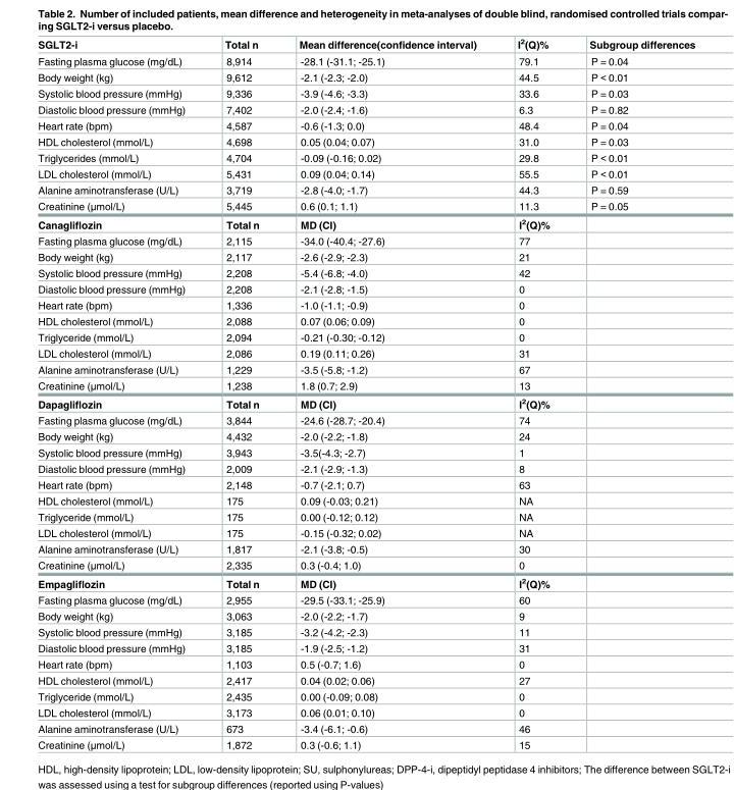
<table><thead><tr><td>SGLT2-i</td><td>Total n</td><td>Mean difference(confidence interval)</td><td>I<sup>2</sup>(Q)%</td><td>Subgroup differences</td></tr></thead><tbody><tr><td>Fasting plasma glucose (mg/dL)</td><td>8,914</td><td>-28.1 (-31.1; -25.1)</td><td>79.1</td><td>P = 0.04</td></tr><tr><td>Body weight (kg)</td><td>9,612</td><td>-2.1 (-2.3; -2.0)</td><td>44.5</td><td>P &lt; 0.01</td></tr><tr><td>Systolic blood pressure (mmHg)</td><td>9,336</td><td>-3.9 (-4.6; -3.3)</td><td>33.6</td><td>P = 0.03</td></tr><tr><td>Diastolic blood pressure (mmHg)</td><td>7,402</td><td>-2.0 (-2.4; -1.6)</td><td>6.3</td><td>P = 0.82</td></tr><tr><td>Heart rate (bpm)</td><td>4,587</td><td>-0.6 (-1.3; 0.0)</td><td>48.4</td><td>P = 0.04</td></tr><tr><td>HDL cholesterol (mmol/L)</td><td>4,698</td><td>0.05 (0.04; 0.07)</td><td>31.0</td><td>P = 0.03</td></tr><tr><td>Triglycerides (mmol/L)</td><td>4,704</td><td>-0.09 (-0.16; 0.02)</td><td>29.8</td><td>P &lt; 0.01</td></tr><tr><td>LDL cholesterol (mmol/L)</td><td>5,431</td><td>0.09 (0.04; 0.14)</td><td>55.5</td><td>P &lt; 0.01</td></tr><tr><td>Alanine aminotransferase (U/L)</td><td>3,719</td><td>-2.8 (-4.0; -1.7)</td><td>44.3</td><td>P = 0.59</td></tr><tr><td>Creatinine (μmol/L)</td><td>5,445</td><td>0.6 (0.1; 1.1)</td><td>11.3</td><td>P = 0.05</td></tr><tr><td>Canagliflozin</td><td>Total n</td><td>MD (CI)</td><td>I<sup>2</sup>(Q)%</td><td></td></tr><tr><td>Fasting plasma glucose (mg/dL)</td><td>2,115</td><td>-34.0 (-40.4; -27.6)</td><td>77</td><td></td></tr><tr><td>Body weight (kg)</td><td>2,117</td><td>-2.6 (-2.9; -2.3)</td><td>21</td><td></td></tr><tr><td>Systolic blood pressure (mmHg)</td><td>2,208</td><td>-5.4 (-6.8; -4.0)</td><td>42</td><td></td></tr><tr><td>Diastolic blood pressure (mmHg)</td><td>2,208</td><td>-2.1 (-2.8; -1.5)</td><td>0</td><td></td></tr><tr><td>Heart rate (bpm)</td><td>1,336</td><td>-1.0 (-1.1; -0.9)</td><td>0</td><td></td></tr><tr><td>HDL cholesterol (mmol/L)</td><td>2,088</td><td>0.07 (0.06; 0.09)</td><td>0</td><td></td></tr><tr><td>Triglyceride (mmol/L)</td><td>2,094</td><td>-0.21 (-0.30; -0.12)</td><td>0</td><td></td></tr><tr><td>LDL cholesterol (mmol/L)</td><td>2,086</td><td>0.19 (0.11; 0.26)</td><td>31</td><td></td></tr><tr><td>Alanine aminotransferase (U/L)</td><td>1,229</td><td>-3.5 (-5.8; -1.2)</td><td>67</td><td></td></tr><tr><td>Creatinine (μmol/L)</td><td>1,238</td><td>1.8 (0.7; 2.9)</td><td>13</td><td></td></tr><tr><td>Dapagliflozin</td><td>Total n</td><td>MD (CI)</td><td>I<sup>2</sup>(Q)%</td><td></td></tr><tr><td>Fasting plasma glucose (mg/dL)</td><td>3,844</td><td>-24.6 (-28.7; -20.4)</td><td>74</td><td></td></tr><tr><td>Body weight (kg)</td><td>4,432</td><td>-2.0 (-2.2; -1.8)</td><td>24</td><td></td></tr><tr><td>Systolic blood pressure (mmHg)</td><td>3,943</td><td>-3.5(-4.3; -2.7)</td><td>1</td><td></td></tr><tr><td>Diastolic blood pressure (mmHg)</td><td>2,009</td><td>-2.1 (-2.9; -1.3)</td><td>8</td><td></td></tr><tr><td>Heart rate (bpm)</td><td>2,148</td><td>-0.7 (-2.1; 0.7)</td><td>63</td><td></td></tr><tr><td>HDL cholesterol (mmol/L)</td><td>175</td><td>0.09 (-0.03; 0.21)</td><td>NA</td><td></td></tr><tr><td>Triglyceride (mmol/L)</td><td>175</td><td>0.00 (-0.12; 0.12)</td><td>NA</td><td></td></tr><tr><td>LDL cholesterol (mmol/L)</td><td>175</td><td>-0.15 (-0.32; 0.02)</td><td>NA</td><td></td></tr><tr><td>Alanine aminotransferase (U/L)</td><td>1,817</td><td>-2.1 (-3.8; -0.5)</td><td>30</td><td></td></tr><tr><td>Creatinine (μmol/L)</td><td>2,335</td><td>0.3 (-0.4; 1.0)</td><td>0</td><td></td></tr><tr><td>Empagliflozin</td><td>Total n</td><td>MD (CI)</td><td>I<sup>2</sup>(Q)%</td><td></td></tr><tr><td>Fasting plasma glucose (mg/dL)</td><td>2,955</td><td>-29.5 (-33.1; -25.9)</td><td>60</td><td></td></tr><tr><td>Body weight (kg)</td><td>3,063</td><td>-2.0 (-2.2; -1.7)</td><td>9</td><td></td></tr><tr><td>Systolic blood pressure (mmHg)</td><td>3,185</td><td>-3.2 (-4.2; -2.3)</td><td>11</td><td></td></tr><tr><td>Diastolic blood pressure (mmHg)</td><td>3,185</td><td>-1.9 (-2.5; -1.2)</td><td>31</td><td></td></tr><tr><td>Heart rate (bpm)</td><td>1,103</td><td>0.5 (-0.7; 1.6)</td><td>0</td><td></td></tr><tr><td>HDL cholesterol (mmol/L)</td><td>2,417</td><td>0.04 (0.02; 0.06)</td><td>27</td><td></td></tr><tr><td>Triglyceride (mmol/L)</td><td>2,435</td><td>0.00 (-0.09; 0.08)</td><td>0</td><td></td></tr><tr><td>LDL cholesterol (mmol/L)</td><td>3,173</td><td>0.06 (0.01; 0.10)</td><td>0</td><td></td></tr><tr><td>Alanine aminotransferase (U/L)</td><td>673</td><td>-3.4 (-6.1; -0.6)</td><td>46</td><td></td></tr><tr><td>Creatinine (μmol/L)</td><td>1,872</td><td>0.3 (-0.6; 1.1)</td><td>15</td><td></td></tr></tbody></table>